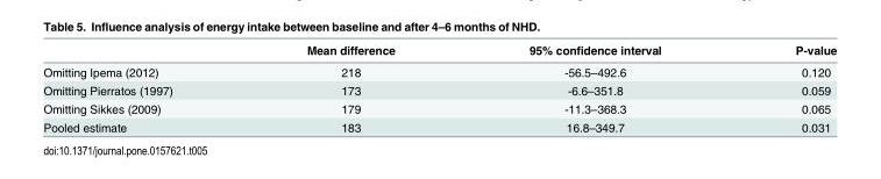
<table><thead><tr><td></td><td>Mean difference</td><td>95% confidence interval</td><td>P-value</td></tr></thead><tbody><tr><td>Omitting Ipema (2012)</td><td>218</td><td>-56.5–492.6</td><td>0.120</td></tr><tr><td>Omitting Pierratos (1997)</td><td>173</td><td>-6.6–351.8</td><td>0.059</td></tr><tr><td>Omitting Sikkes (2009)</td><td>179</td><td>-11.3–368.3</td><td>0.065</td></tr><tr><td>Pooled estimate</td><td>183</td><td>16.8–349.7</td><td>0.031</td></tr></tbody></table>